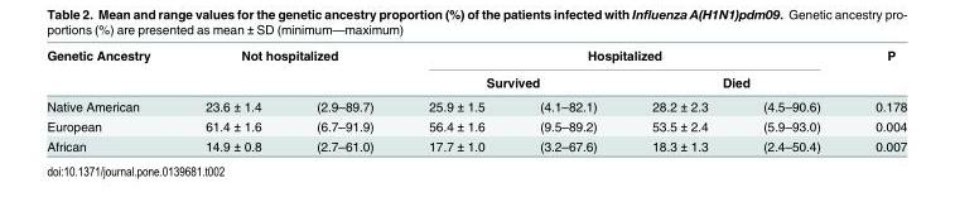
<table><thead><tr><td rowspan="3">Genetic Ancestry Native American</td><td rowspan="2" colspan="2">Not hospitalized</td><td colspan="4">Hospitalized</td><td rowspan="3">P 0.178</td></tr><tr><td colspan="2">Survived</td><td colspan="2">Died</td></tr><tr><td>23.6 ± 1.4</td><td>(2.9–89.7)</td><td>25.9 ± 1.5</td><td>(4.1–82.1)</td><td>28.2 ± 2.3</td><td>(4.5–90.6)</td></tr></thead><tbody><tr><td>European</td><td>61.4 ± 1.6</td><td>(6.7–91.9)</td><td>56.4 ± 1.6</td><td>(9.5–89.2)</td><td>53.5 ± 2.4</td><td>(5.9–93.0)</td><td>0.004</td></tr><tr><td>African</td><td>14.9 ± 0.8</td><td>(2.7–61.0)</td><td>17.7 ± 1.0</td><td>(3.2–67.6)</td><td>18.3 ± 1.3</td><td>(2.4–50.4)</td><td>0.007</td></tr></tbody></table>